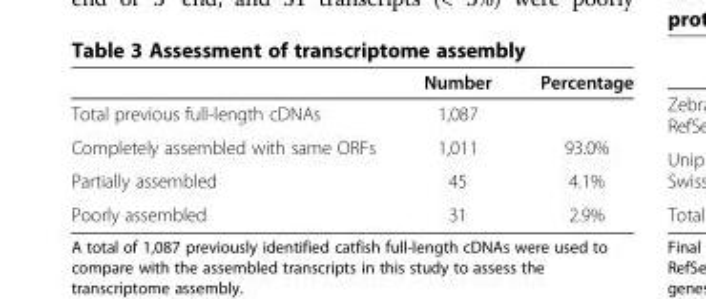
<table><thead><tr><td></td><td>Number</td><td>Percentage</td></tr></thead><tbody><tr><td>Total previous full-length cDNAs</td><td>1,087</td><td></td></tr><tr><td>Completely assembled with same ORFs</td><td>1,011</td><td>93.0%</td></tr><tr><td>Partially assembled</td><td>45</td><td>4.1%</td></tr><tr><td>Poorly assembled</td><td>31</td><td>2.9%</td></tr></tbody></table>